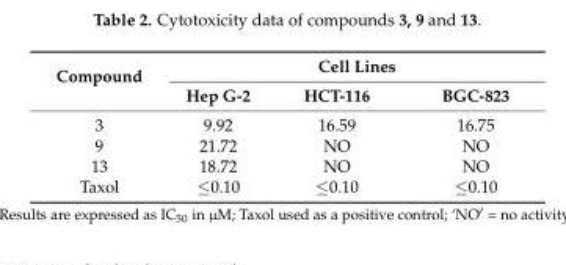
<table><thead><tr><td rowspan="2">Compound</td><td colspan="3">Cell Lines</td></tr><tr><td>Hep G-2</td><td>HCT-116</td><td>BGC-823</td></tr></thead><tbody><tr><td>3</td><td>9.92</td><td>16.59</td><td>16.75</td></tr><tr><td>9</td><td>21.72</td><td>NO</td><td>NO</td></tr><tr><td>13</td><td>18.72</td><td>NO</td><td>NO</td></tr><tr><td>Taxol</td><td>≤0.10</td><td>≤0.10</td><td>≤0.10</td></tr></tbody></table>